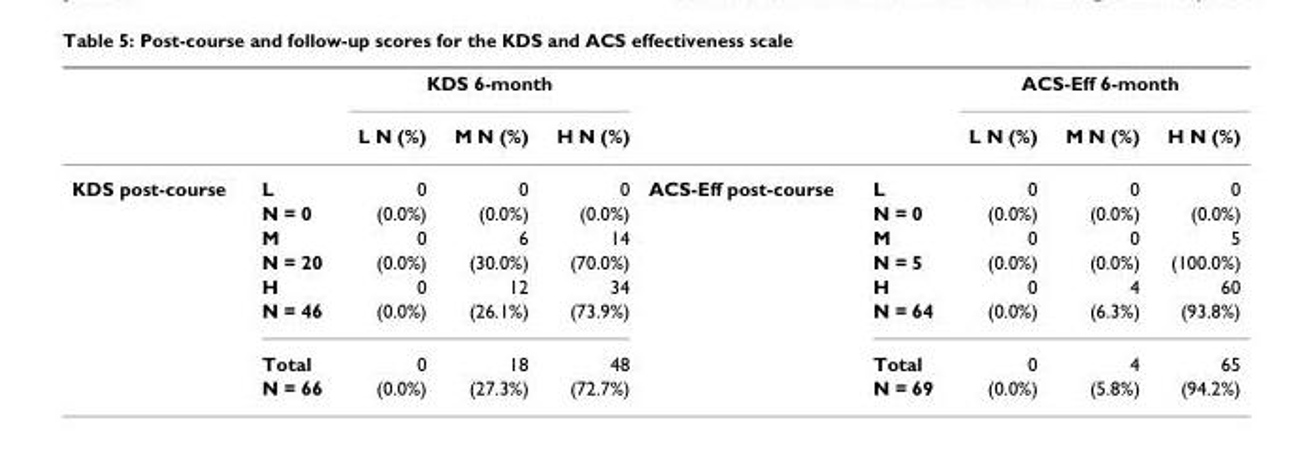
<table><thead><tr><td rowspan="2"></td><td rowspan="2"></td><td colspan="3">KDS 6-month</td><td rowspan="2"></td><td rowspan="2"></td><td colspan="3">ACS-Eff 6-month</td></tr><tr><td>L N (%)</td><td>M N (%)</td><td>H N (%)</td><td>L N (%)</td><td>M N (%)</td><td>H N (%)</td></tr></thead><tbody><tr><td rowspan="8">KDS post-course</td><td>L</td><td>0</td><td>0</td><td>0</td><td>ACS-Eff post-course</td><td>L</td><td>0</td><td>0</td><td>0</td></tr><tr><td>N = 0</td><td>(0.0%)</td><td>(0.0%)</td><td>(0.0%)</td><td></td><td>N = 0</td><td>(0.0%)</td><td>(0.0%)</td><td>(0.0%)</td></tr><tr><td>M</td><td>0</td><td>6</td><td>14</td><td></td><td>M</td><td>0</td><td>0</td><td>5</td></tr><tr><td>N = 20</td><td>(0.0%)</td><td>(30.0%)</td><td>(70.0%)</td><td></td><td>N = 5</td><td>(0.0%)</td><td>(0.0%)</td><td>(100.0%)</td></tr><tr><td>H</td><td>0</td><td>12</td><td>34</td><td></td><td>H</td><td>0</td><td>4</td><td>60</td></tr><tr><td>N = 46</td><td>(0.0%)</td><td>(26.1%)</td><td>(73.9%)</td><td></td><td>N = 64</td><td>(0.0%)</td><td>(6.3%)</td><td>(93.8%)</td></tr><tr><td>Total</td><td>0</td><td>18</td><td>48</td><td></td><td>Total</td><td>0</td><td>4</td><td>65</td></tr><tr><td>N = 66</td><td>(0.0%)</td><td>(27.3%)</td><td>(72.7%)</td><td></td><td>N = 69</td><td>(0.0%)</td><td>(5.8%)</td><td>(94.2%)</td></tr></tbody></table>